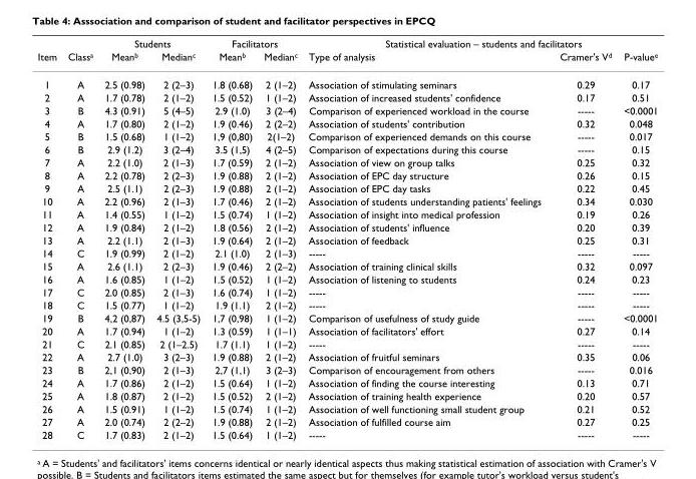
<table><thead><tr><td rowspan="2">Item</td><td rowspan="2">Class<sup>a</sup></td><td colspan="2">Students</td><td colspan="2">Facilitators</td><td colspan="3">Statistical evaluation – students and facilitators</td></tr><tr><td>Mean<sup>b</sup></td><td>Median<sup>c</sup></td><td>Mean<sup>b</sup></td><td>Median<sup>c</sup></td><td>Type of analysis</td><td>Cramer&#x27;s V<sup>d</sup></td><td>P-value<sup>e</sup></td></tr></thead><tbody><tr><td>1</td><td>A</td><td>2.5 (0.98)</td><td>2 (2–3)</td><td>1.8 (0.68)</td><td>2 (1–2)</td><td>Association of stimulating seminars</td><td>0.29</td><td>0.17</td></tr><tr><td>2</td><td>A</td><td>1.7 (0.78)</td><td>2 (1–2)</td><td>1.5 (0.52)</td><td>1 (1–2)</td><td>Association of increased students&#x27; confidence</td><td>0.17</td><td>0.51</td></tr><tr><td>3</td><td>B</td><td>4.3 (0.91)</td><td>5 (4–5)</td><td>2.9 (1.0)</td><td>3 (2–4)</td><td>Comparison of experienced workload in the course</td><td>-----</td><td>&lt;0.0001</td></tr><tr><td>4</td><td>A</td><td>1.7 (0.80)</td><td>2 (1–2)</td><td>1.9 (0.46)</td><td>2 (2–2)</td><td>Association of students&#x27; contribution</td><td>0.32</td><td>0.048</td></tr><tr><td>5</td><td>B</td><td>1.5 (0.68)</td><td>1 (1–2)</td><td>1,9 (0,80)</td><td>2(1–2)</td><td>Comparison of experienced demands on this course</td><td>-----</td><td>0.017</td></tr><tr><td>6</td><td>B</td><td>2.9 (1.2)</td><td>3 (2–4)</td><td>3.5 (1,5)</td><td>4 (2–5)</td><td>Comparison of expectations during this course</td><td>-----</td><td>0.15</td></tr><tr><td>7</td><td>A</td><td>2.2 (1.0)</td><td>2 (1–3)</td><td>1.7 (0.59)</td><td>2 (1–2)</td><td>Association of view on group talks</td><td>0.25</td><td>0.32</td></tr><tr><td>8</td><td>A</td><td>2.2 (0.78)</td><td>2 (2–3)</td><td>1.9 (0.88)</td><td>2 (1–2)</td><td>Association of EPC day structure</td><td>0.26</td><td>0.15</td></tr><tr><td>9</td><td>A</td><td>2.5 (1.1)</td><td>2 (2–3)</td><td>1.9 (0.88)</td><td>2 (1–2)</td><td>Association of EPC day tasks</td><td>0.22</td><td>0.45</td></tr><tr><td>10</td><td>A</td><td>2.2 (0.96)</td><td>2 (1–3)</td><td>1.7 (0.46)</td><td>2 (1–2)</td><td>Association of students understanding patients&#x27; feelings</td><td>0.34</td><td>0.030</td></tr><tr><td>11</td><td>A</td><td>1.4 (0.55)</td><td>1 (1–2)</td><td>1.5 (0.74)</td><td>1 (1–2)</td><td>Association of insight into medical profession</td><td>0.19</td><td>0.26</td></tr><tr><td>12</td><td>A</td><td>1.9 (0.84)</td><td>2 (1–2)</td><td>1.8 (0.56)</td><td>2 (1–2)</td><td>Association of students&#x27; influence</td><td>0.20</td><td>0.39</td></tr><tr><td>13</td><td>A</td><td>2.2 (1.1)</td><td>2 (1–3)</td><td>1.9 (0.64)</td><td>2 (1–2)</td><td>Association of feedback</td><td>0.25</td><td>0.31</td></tr><tr><td>14</td><td>C</td><td>1.9 (0.99)</td><td>2 (1–2)</td><td>2.1 (1.0)</td><td>2 (1–3)</td><td>-----</td><td>-----</td><td>-----</td></tr><tr><td>15</td><td>A</td><td>2.6 (1.1)</td><td>2 (2–3)</td><td>1.9 (0.46)</td><td>2 (2–2)</td><td>Association of training clinical skills</td><td>0.32</td><td>0.097</td></tr><tr><td>16</td><td>A</td><td>1.6 (0.85)</td><td>1 (1–2)</td><td>1.5 (0.52)</td><td>1 (1–2)</td><td>Association of listening to students</td><td>0.24</td><td>0.23</td></tr><tr><td>17</td><td>C</td><td>2.0 (0.85)</td><td>2 (1–3)</td><td>1.6 (0.74)</td><td>1 (1–2)</td><td>-----</td><td>-----</td><td>-----</td></tr><tr><td>18</td><td>C</td><td>1.5 (0.77)</td><td>1 (1–2)</td><td>1.9 (1.1)</td><td>2 (1–2)</td><td>-----</td><td>-----</td><td>-----</td></tr><tr><td>19</td><td>B</td><td>4,2 (0,87)</td><td>4.5 (3,5-5)</td><td>1,7 (0,98)</td><td>1 (1–2)</td><td>Comparison of usefulness of study guide</td><td>-----</td><td>&lt;0.0001</td></tr><tr><td>20</td><td>A</td><td>1.7 (0.94)</td><td>1 (1–2)</td><td>1.3 (0.59)</td><td>1 (1–1)</td><td>Association of facilitators&#x27; effort</td><td>0.27</td><td>0.14</td></tr><tr><td>21</td><td>C</td><td>2.1 (0.85)</td><td>2 (1–2.5)</td><td>1.7 (1.1)</td><td>1 (1–2)</td><td>-----</td><td>-----</td><td>-----</td></tr><tr><td>22</td><td>A</td><td>2.7 (1.0)</td><td>3 (2–3)</td><td>1.9 (0.88)</td><td>2 (1–2)</td><td>Association of fruitful seminars</td><td>0.35</td><td>0.06</td></tr><tr><td>23</td><td>B</td><td>2,1 (0,90)</td><td>2 (1–3)</td><td>2,7 (1,1)</td><td>3 (2–3)</td><td>Comparison of encouragement from others</td><td>-----</td><td>0.016</td></tr><tr><td>24</td><td>A</td><td>1.7 (0.86)</td><td>2 (1–2)</td><td>1.5 (0.64)</td><td>1 (1–2)</td><td>Association of finding the course interesting</td><td>0.13</td><td>0.71</td></tr><tr><td>25</td><td>A</td><td>1.8 (0.87)</td><td>2 (1–2)</td><td>1.5 (0.52)</td><td>2 (1–2)</td><td>Association of training health experience</td><td>0.20</td><td>0.57</td></tr><tr><td>26</td><td>A</td><td>1.5 (0.91)</td><td>1 (1–2)</td><td>1.5 (0.74)</td><td>1 (1–2)</td><td>Association of well functioning small student group</td><td>0.21</td><td>0.52</td></tr><tr><td>27</td><td>A</td><td>2.0 (0.74)</td><td>2 (2–2)</td><td>1.9 (0.88)</td><td>2 (1–2)</td><td>Association of fulfilled course aim</td><td>0.27</td><td>0.25</td></tr><tr><td>28</td><td>C</td><td>1.7 (0.83)</td><td>2 (1–2)</td><td>1.5 (0.64)</td><td>1 (1–2)</td><td>-----</td><td>-----</td><td>-----</td></tr></tbody></table>